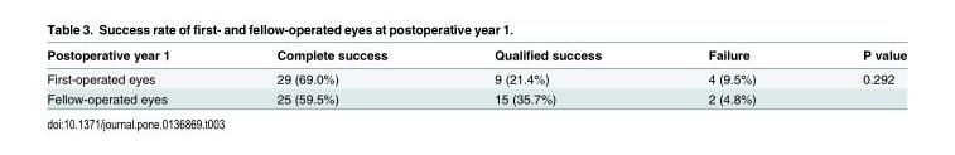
<table><thead><tr><td>Postoperative year 1</td><td>Complete success</td><td>Qualified success</td><td>Failure</td><td>P value</td></tr></thead><tbody><tr><td>First-operated eyes</td><td>29 (69.0%)</td><td>9 (21.4%)</td><td>4 (9.5%)</td><td>0.292</td></tr><tr><td>Fellow-operated eyes</td><td>25 (59.5%)</td><td>15 (35.7%)</td><td>2 (4.8%)</td><td></td></tr></tbody></table>